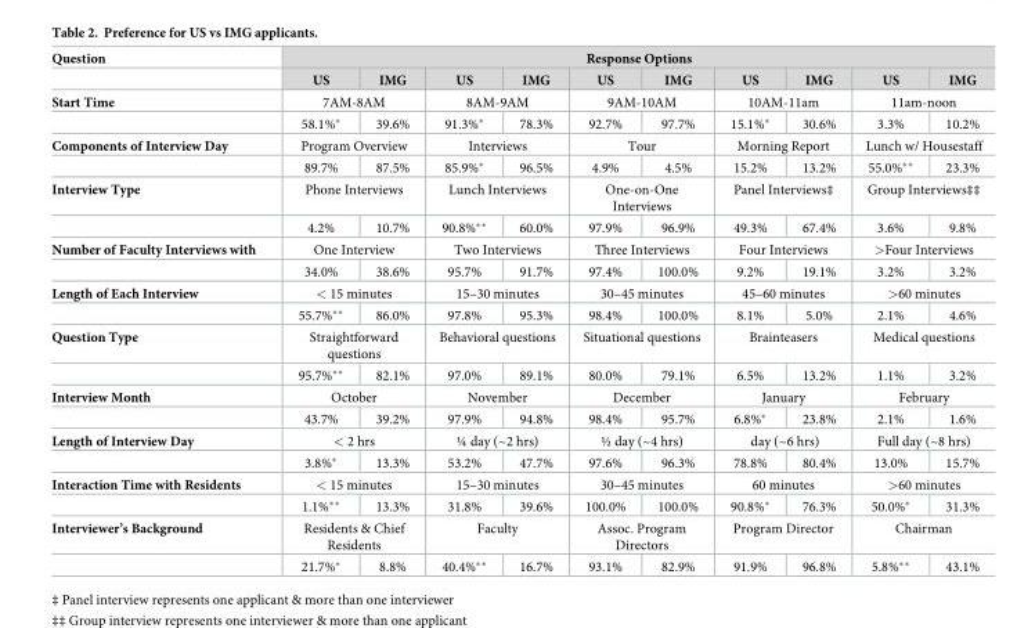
<table><thead><tr><td rowspan="2">Question</td><td colspan="10">Response Options</td></tr><tr><td>US</td><td>IMG</td><td>US</td><td>IMG</td><td>US</td><td>IMG</td><td>US</td><td>IMG</td><td>US</td><td>IMG</td></tr></thead><tbody><tr><td rowspan="2">Start Time</td><td colspan="2">7AM-8AM</td><td colspan="2">8AM-9AM</td><td colspan="2">9AM-10AM</td><td colspan="2">10AM-11am</td><td colspan="2">11am-noon</td></tr><tr><td>58.1%*</td><td>39.6%</td><td>91.3%*</td><td>78.3%</td><td>92.7%</td><td>97.7%</td><td>15.1%*</td><td>30.6%</td><td>3.3%</td><td>10.2%</td></tr><tr><td rowspan="2">Components of Interview Day</td><td colspan="2">Program Overview</td><td colspan="2">Interviews</td><td colspan="2">Tour</td><td colspan="2">Morning Report</td><td colspan="2">Lunch w/ Housestaff</td></tr><tr><td>89.7%</td><td>87.5%</td><td>85.9%*</td><td>96.5%</td><td>4.9%</td><td>4.5%</td><td>15.2%</td><td>13.2%</td><td>55.0%**</td><td>23.3%</td></tr><tr><td rowspan="2">Interview Type</td><td colspan="2">Phone Interviews</td><td colspan="2">Lunch Interviews</td><td colspan="2">One-on-One Interviews</td><td colspan="2">Panel Interviews‡</td><td colspan="2">Group Interviews‡‡</td></tr><tr><td>4.2%</td><td>10.7%</td><td>90.8%**</td><td>60.0%</td><td>97.9%</td><td>96.9%</td><td>49.3%</td><td>67.4%</td><td>3.6%</td><td>9.8%</td></tr><tr><td rowspan="2">Number of Faculty Interviews with</td><td colspan="2">One Interview</td><td colspan="2">Two Interviews</td><td colspan="2">Three Interviews</td><td colspan="2">Four Interviews</td><td colspan="2">&gt;Four Interviews</td></tr><tr><td>34.0%</td><td>38.6%</td><td>95.7%</td><td>91.7%</td><td>97.4%</td><td>100.0%</td><td>9.2%</td><td>19.1%</td><td>3.2%</td><td>3.2%</td></tr><tr><td rowspan="2">Length of Each Interview</td><td colspan="2">&lt; 15 minutes</td><td colspan="2">15–30 minutes</td><td colspan="2">30–45 minutes</td><td colspan="2">45–60 minutes</td><td colspan="2">&gt;60 minutes</td></tr><tr><td>55.7%**</td><td>86.0%</td><td>97.8%</td><td>95.3%</td><td>98.4%</td><td>100.0%</td><td>8.1%</td><td>5.0%</td><td>2.1%</td><td>4.6%</td></tr><tr><td rowspan="2">Question Type</td><td colspan="2">Straightforward questions</td><td colspan="2">Behavioral questions</td><td colspan="2">Situational questions</td><td colspan="2">Brainteasers</td><td colspan="2">Medical questions</td></tr><tr><td>95.7%**</td><td>82.1%</td><td>97.0%</td><td>89.1%</td><td>80.0%</td><td>79.1%</td><td>6.5%</td><td>13.2%</td><td>1.1%</td><td>3.2%</td></tr><tr><td rowspan="2">Interview Month</td><td colspan="2">October</td><td colspan="2">November</td><td colspan="2">December</td><td colspan="2">January</td><td colspan="2">February</td></tr><tr><td>43.7%</td><td>39.2%</td><td>97.9%</td><td>94.8%</td><td>98.4%</td><td>95.7%</td><td>6.8%*</td><td>23.8%</td><td>2.1%</td><td>1.6%</td></tr><tr><td rowspan="2">Length of Interview Day</td><td colspan="2">&lt; 2 hrs</td><td colspan="2">¼ day (~2 hrs)</td><td colspan="2">½ day (~4 hrs)</td><td colspan="2">day (~6 hrs)</td><td colspan="2">Full day (~8 hrs)</td></tr><tr><td>3.8%*</td><td>13.3%</td><td>53.2%</td><td>47.7%</td><td>97.6%</td><td>96.3%</td><td>78.8%</td><td>80.4%</td><td>13.0%</td><td>15.7%</td></tr><tr><td rowspan="2">Interaction Time with Residents</td><td colspan="2">&lt; 15 minutes</td><td colspan="2">15–30 minutes</td><td colspan="2">30–45 minutes</td><td colspan="2">60 minutes</td><td colspan="2">&gt;60 minutes</td></tr><tr><td>1.1%**</td><td>13.3%</td><td>31.8%</td><td>39.6%</td><td>100.0%</td><td>100.0%</td><td>90.8%*</td><td>76.3%</td><td>50.0%*</td><td>31.3%</td></tr><tr><td rowspan="2">Interviewer’s Background</td><td colspan="2">Residents &amp; Chief Residents</td><td colspan="2">Faculty</td><td colspan="2">Assoc. Program Directors</td><td colspan="2">Program Director</td><td colspan="2">Chairman</td></tr><tr><td>21.7%*</td><td>8.8%</td><td>40.4%**</td><td>16.7%</td><td>93.1%</td><td>82.9%</td><td>91.9%</td><td>96.8%</td><td>5.8%**</td><td>43.1%</td></tr></tbody></table>